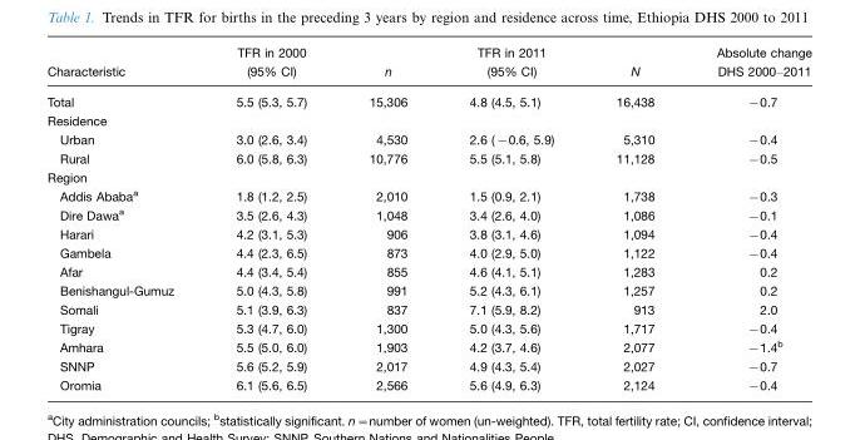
<table><thead><tr><td>Characteristic</td><td>TFR in 2000 (95% CI)</td><td>n</td><td>TFR in 2011 (95% CI)</td><td>N</td><td>Absolute change DHS 2000–2011</td></tr></thead><tbody><tr><td>Total</td><td>5.5 (5.3, 5.7)</td><td>15,306</td><td>4.8 (4.5, 5.1)</td><td>16,438</td><td>−0.7</td></tr><tr><td colspan="6">Residence</td></tr><tr><td>Urban</td><td>3.0 (2.6, 3.4)</td><td>4,530</td><td>2.6 (−0.6, 5.9)</td><td>5,310</td><td>−0.4</td></tr><tr><td>Rural</td><td>6.0 (5.8, 6.3)</td><td>10,776</td><td>5.5 (5.1, 5.8)</td><td>11,128</td><td>−0.5</td></tr><tr><td colspan="6">Region</td></tr><tr><td>Addis Ababaa</td><td>1.8 (1.2, 2.5)</td><td>2,010</td><td>1.5 (0.9, 2.1)</td><td>1,738</td><td>−0.3</td></tr><tr><td>Dire Dawaa</td><td>3.5 (2.6, 4.3)</td><td>1,048</td><td>3.4 (2.6, 4.0)</td><td>1,086</td><td>−0.1</td></tr><tr><td>Harari</td><td>4.2 (3.1, 5.3)</td><td>906</td><td>3.8 (3.1, 4.6)</td><td>1,094</td><td>−0.4</td></tr><tr><td>Gambela</td><td>4.4 (2.3, 6.5)</td><td>873</td><td>4.0 (2.9, 5.0)</td><td>1,122</td><td>−0.4</td></tr><tr><td>Afar</td><td>4.4 (3.4, 5.4)</td><td>855</td><td>4.6 (4.1, 5.1)</td><td>1,283</td><td>0.2</td></tr><tr><td>Benishangul-Gumuz</td><td>5.0 (4.3, 5.8)</td><td>991</td><td>5.2 (4.3, 6.1)</td><td>1,257</td><td>0.2</td></tr><tr><td>Somali</td><td>5.1 (3.9, 6.3)</td><td>837</td><td>7.1 (5.9, 8.2)</td><td>913</td><td>2.0</td></tr><tr><td>Tigray</td><td>5.3 (4.7, 6.0)</td><td>1,300</td><td>5.0 (4.3, 5.6)</td><td>1,717</td><td>−0.4</td></tr><tr><td>Amhara</td><td>5.5 (5.0, 6.0)</td><td>1,903</td><td>4.2 (3.7, 4.6)</td><td>2,077</td><td>−1.4b</td></tr><tr><td>SNNP</td><td>5.6 (5.2, 5.9)</td><td>2,017</td><td>4.9 (4.3, 5.4)</td><td>2,027</td><td>−0.7</td></tr><tr><td>Oromia</td><td>6.1 (5.6, 6.5)</td><td>2,566</td><td>5.6 (4.9, 6.3)</td><td>2,124</td><td>−0.4</td></tr></tbody></table>